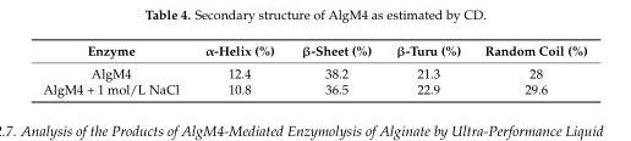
<table><thead><tr><td>Enzyme</td><td>α-Helix (%)</td><td>β-Sheet (%)</td><td>β-Turu (%)</td><td>Random Coil (%)</td></tr></thead><tbody><tr><td>AlgM4</td><td>12.4</td><td>38.2</td><td>21.3</td><td>28</td></tr><tr><td>AlgM4 + 1 mol/L NaCl</td><td>10.8</td><td>36.5</td><td>22.9</td><td>29.6</td></tr></tbody></table>